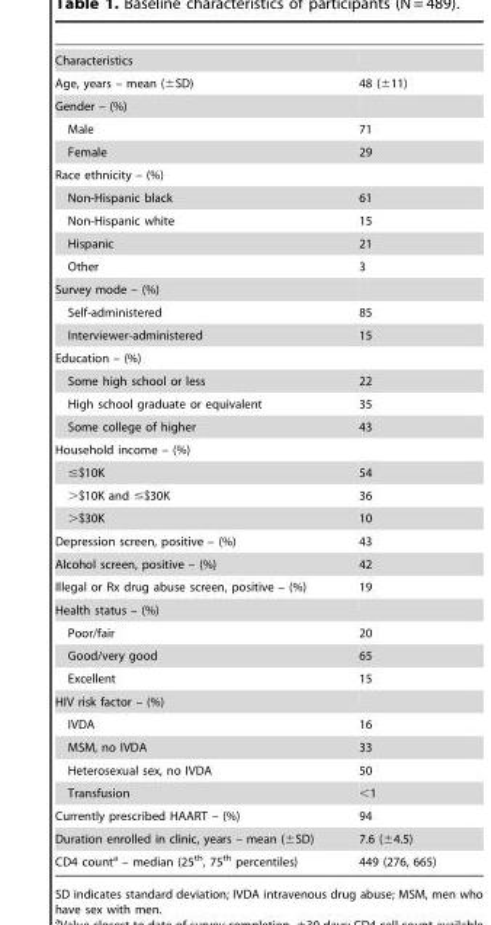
<table><tbody><tr><td colspan="2">Characteristics</td></tr><tr><td>Age, years – mean (±SD)</td><td>48 (±11)</td></tr><tr><td colspan="2">Gender – (%)</td></tr><tr><td>Male</td><td>71</td></tr><tr><td>Female</td><td>29</td></tr><tr><td colspan="2">Race ethnicity – (%)</td></tr><tr><td>Non-Hispanic black</td><td>61</td></tr><tr><td>Non-Hispanic white</td><td>15</td></tr><tr><td>Hispanic</td><td>21</td></tr><tr><td>Other</td><td>3</td></tr><tr><td colspan="2">Survey mode – (%)</td></tr><tr><td>Self-administered</td><td>85</td></tr><tr><td>Interviewer-administered</td><td>15</td></tr><tr><td colspan="2">Education – (%)</td></tr><tr><td>Some high school or less</td><td>22</td></tr><tr><td>High school graduate or equivalent</td><td>35</td></tr><tr><td>Some college of higher</td><td>43</td></tr><tr><td colspan="2">Household income – (%)</td></tr><tr><td>≤$10K</td><td>54</td></tr><tr><td>&gt;$10K and ≤$30K</td><td>36</td></tr><tr><td>&gt;$30K</td><td>10</td></tr><tr><td>Depression screen, positive – (%)</td><td>43</td></tr><tr><td>Alcohol screen, positive – (%)</td><td>42</td></tr><tr><td>Illegal or Rx drug abuse screen, positive – (%)</td><td>19</td></tr><tr><td colspan="2">Health status – (%)</td></tr><tr><td>Poor/fair</td><td>20</td></tr><tr><td>Good/very good</td><td>65</td></tr><tr><td>Excellent</td><td>15</td></tr><tr><td colspan="2">HIV risk factor – (%)</td></tr><tr><td>IVDA</td><td>16</td></tr><tr><td>MSM, no IVDA</td><td>33</td></tr><tr><td>Heterosexual sex, no IVDA</td><td>50</td></tr><tr><td>Transfusion</td><td>&lt;1</td></tr><tr><td>Currently prescribed HAART – (%)</td><td>94</td></tr><tr><td>Duration enrolled in clinic, years – mean (±SD)</td><td>7.6 (±4.5)</td></tr><tr><td>CD4 count<sup>a</sup> – median (25<sup>th</sup>, 75<sup>th</sup> percentiles)</td><td>449 (276, 665)</td></tr></tbody></table>